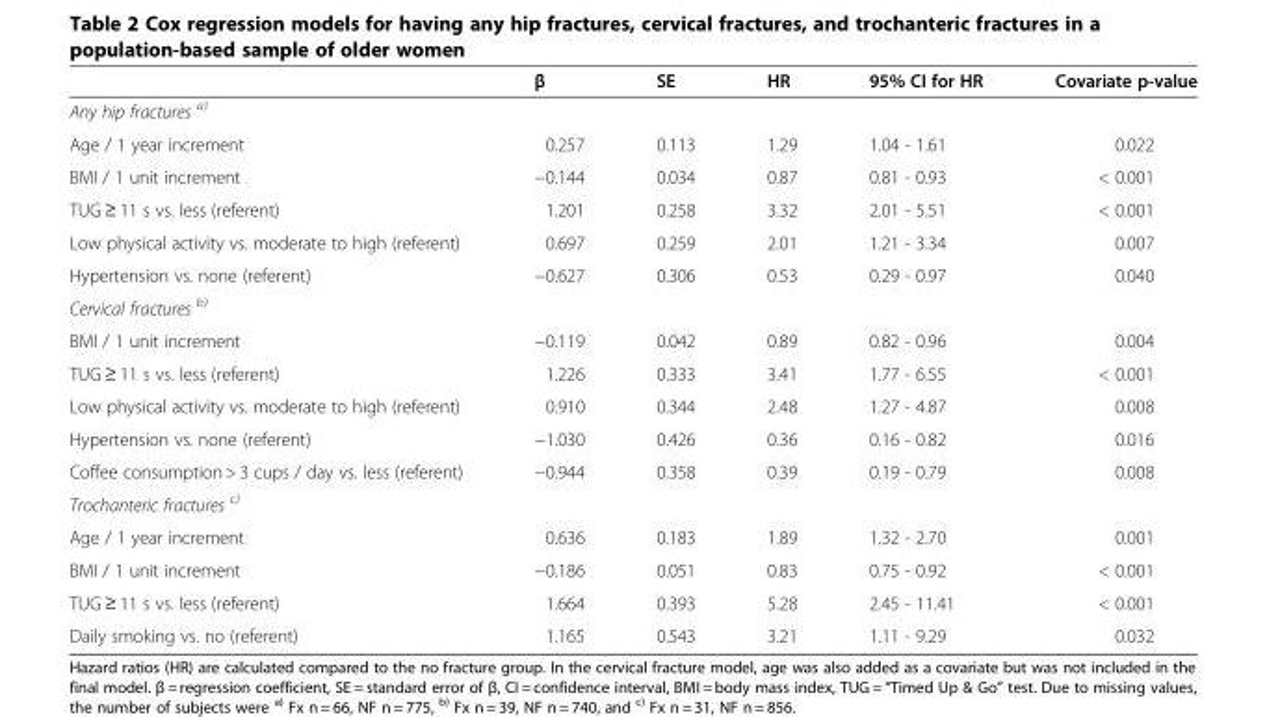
<table><thead><tr><td></td><td>β</td><td>SE</td><td>HR</td><td>95% CI for HR</td><td>Covariate p-value</td></tr></thead><tbody><tr><td colspan="6">Any hip fractures <sup>a)</sup></td></tr><tr><td>Age / 1 year increment</td><td>0.257</td><td>0.113</td><td>1.29</td><td>1.04 - 1.61</td><td>0.022</td></tr><tr><td>BMI / 1 unit increment</td><td>−0.144</td><td>0.034</td><td>0.87</td><td>0.81 - 0.93</td><td>&lt; 0.001</td></tr><tr><td>TUG ≥ 11 s vs. less (referent)</td><td>1.201</td><td>0.258</td><td>3.32</td><td>2.01 - 5.51</td><td>&lt; 0.001</td></tr><tr><td>Low physical activity vs. moderate to high (referent)</td><td>0.697</td><td>0.259</td><td>2.01</td><td>1.21 - 3.34</td><td>0.007</td></tr><tr><td>Hypertension vs. none (referent)</td><td>−0.627</td><td>0.306</td><td>0.53</td><td>0.29 - 0.97</td><td>0.040</td></tr><tr><td colspan="6">Cervical fractures <sup>b)</sup></td></tr><tr><td>BMI / 1 unit increment</td><td>−0.119</td><td>0.042</td><td>0.89</td><td>0.82 - 0.96</td><td>0.004</td></tr><tr><td>TUG ≥ 11 s vs. less (referent)</td><td>1.226</td><td>0.333</td><td>3.41</td><td>1.77 - 6.55</td><td>&lt; 0.001</td></tr><tr><td>Low physical activity vs. moderate to high (referent)</td><td>0.910</td><td>0.344</td><td>2.48</td><td>1.27 - 4.87</td><td>0.008</td></tr><tr><td>Hypertension vs. none (referent)</td><td>−1.030</td><td>0.426</td><td>0.36</td><td>0.16 - 0.82</td><td>0.016</td></tr><tr><td>Coffee consumption &gt; 3 cups / day vs. less (referent)</td><td>−0.944</td><td>0.358</td><td>0.39</td><td>0.19 - 0.79</td><td>0.008</td></tr><tr><td colspan="6">Trochanteric fractures <sup>c)</sup></td></tr><tr><td>Age / 1 year increment</td><td>0.636</td><td>0.183</td><td>1.89</td><td>1.32 - 2.70</td><td>0.001</td></tr><tr><td>BMI / 1 unit increment</td><td>−0.186</td><td>0.051</td><td>0.83</td><td>0.75 - 0.92</td><td>&lt; 0.001</td></tr><tr><td>TUG ≥ 11 s vs. less (referent)</td><td>1.664</td><td>0.393</td><td>5.28</td><td>2.45 - 11.41</td><td>&lt; 0.001</td></tr><tr><td>Daily smoking vs. no (referent)</td><td>1.165</td><td>0.543</td><td>3.21</td><td>1.11 - 9.29</td><td>0.032</td></tr></tbody></table>